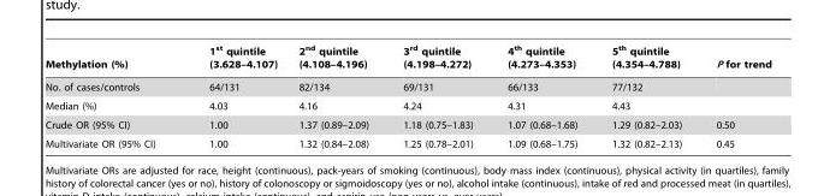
<table><thead><tr><td>Methylation (%)</td><td>1<sup>st</sup> quintile (3.628–4.107)</td><td>2<sup>nd</sup> quintile (4.108–4.196)</td><td>3<sup>rd</sup> quintile (4.198–4.272)</td><td>4<sup>th</sup> quintile (4.273–4.353)</td><td>5<sup>th</sup> quintile (4.354–4.788)</td><td>P for trend</td></tr></thead><tbody><tr><td>No. of cases/controls</td><td>64/131</td><td>82/134</td><td>69/131</td><td>66/133</td><td>77/132</td><td></td></tr><tr><td>Median (%)</td><td>4.03</td><td>4.16</td><td>4.24</td><td>4.31</td><td>4.43</td><td></td></tr><tr><td>Crude OR (95% CI)</td><td>1.00</td><td>1.37 (0.89–2.09)</td><td>1.18 (0.75–1.83)</td><td>1.07 (0.68–1.68)</td><td>1.29 (0.82–2.03)</td><td>0.50</td></tr><tr><td>Multivariate OR (95% CI)</td><td>1.00</td><td>1.32 (0.84–2.08)</td><td>1.25 (0.78–2.01)</td><td>1.09 (0.68–1.75)</td><td>1.32 (0.82–2.13)</td><td>0.45</td></tr></tbody></table>